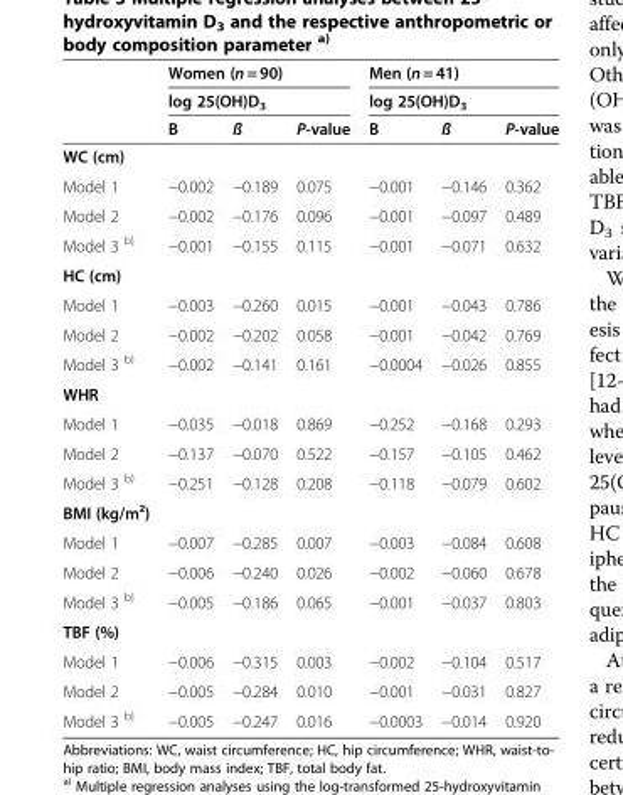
<table><thead><tr><td rowspan="3"></td><td rowspan="2" colspan="3">Women (n = 90) log 25(OH)D<sub>3</sub></td><td rowspan="2" colspan="3">Men (n = 41) log 25(OH)D<sub>3</sub></td></tr><tr></tr><tr><td>B</td><td>ß</td><td>P-value</td><td>B</td><td>ß</td><td>P-value</td></tr></thead><tbody><tr><td colspan="7">WC (cm)</td></tr><tr><td>Model 1</td><td>−0.002</td><td>−0.189</td><td>0.075</td><td>−0.001</td><td>−0.146</td><td>0.362</td></tr><tr><td>Model 2</td><td>−0.002</td><td>−0.176</td><td>0.096</td><td>−0.001</td><td>−0.097</td><td>0.489</td></tr><tr><td>Model 3 <sup>b)</sup></td><td>−0.001</td><td>−0.155</td><td>0.115</td><td>−0.001</td><td>−0.071</td><td>0.632</td></tr><tr><td colspan="7">HC (cm)</td></tr><tr><td>Model 1</td><td>−0.003</td><td>−0.260</td><td>0.015</td><td>−0.001</td><td>−0.043</td><td>0.786</td></tr><tr><td>Model 2</td><td>−0.002</td><td>−0.202</td><td>0.058</td><td>−0.001</td><td>−0.042</td><td>0.769</td></tr><tr><td>Model 3 <sup>b)</sup></td><td>−0.002</td><td>−0.141</td><td>0.161</td><td>−0.0004</td><td>−0.026</td><td>0.855</td></tr><tr><td colspan="7">WHR</td></tr><tr><td>Model 1</td><td>−0.035</td><td>−0.018</td><td>0.869</td><td>−0.252</td><td>−0.168</td><td>0.293</td></tr><tr><td>Model 2</td><td>−0.137</td><td>−0.070</td><td>0.522</td><td>−0.157</td><td>−0.105</td><td>0.462</td></tr><tr><td>Model 3 <sup>b)</sup></td><td>−0.251</td><td>−0.128</td><td>0.208</td><td>−0.118</td><td>−0.079</td><td>0.602</td></tr><tr><td colspan="7">BMI (kg/m²)</td></tr><tr><td>Model 1</td><td>−0.007</td><td>−0.285</td><td>0.007</td><td>−0.003</td><td>−0.084</td><td>0.608</td></tr><tr><td>Model 2</td><td>−0.006</td><td>−0.240</td><td>0.026</td><td>−0.002</td><td>−0.060</td><td>0.678</td></tr><tr><td>Model 3 <sup>b)</sup></td><td>−0.005</td><td>−0.186</td><td>0.065</td><td>−0.001</td><td>−0.037</td><td>0.803</td></tr><tr><td colspan="7">TBF (%)</td></tr><tr><td>Model 1</td><td>−0.006</td><td>−0.315</td><td>0.003</td><td>−0.002</td><td>−0.104</td><td>0.517</td></tr><tr><td>Model 2</td><td>−0.005</td><td>−0.284</td><td>0.010</td><td>−0.001</td><td>−0.031</td><td>0.827</td></tr><tr><td>Model 3 <sup>b)</sup></td><td>−0.005</td><td>−0.247</td><td>0.016</td><td>−0.0003</td><td>−0.014</td><td>0.920</td></tr></tbody></table>